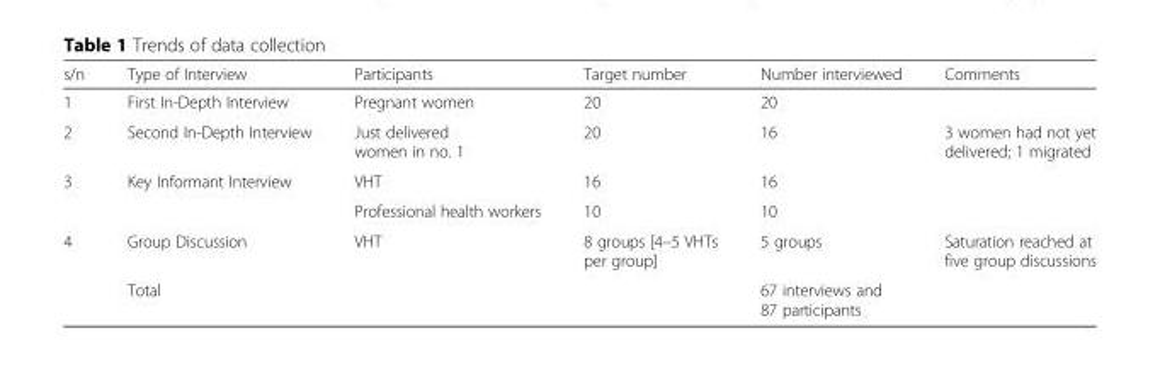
<table><thead><tr><td>s/n</td><td>Type of Interview</td><td>Participants</td><td>Target number</td><td>Number interviewed</td><td>Comments</td></tr></thead><tbody><tr><td>1</td><td>First In-Depth Interview</td><td>Pregnant women</td><td>20</td><td>20</td><td></td></tr><tr><td>2</td><td>Second In-Depth Interview</td><td>Just delivered women in no. 1</td><td>20</td><td>16</td><td>3 women had not yet delivered; 1 migrated</td></tr><tr><td rowspan="2">3</td><td>Key Informant Interview</td><td>VHT</td><td>16</td><td>16</td><td></td></tr><tr><td></td><td>Professional health workers</td><td>10</td><td>10</td><td></td></tr><tr><td rowspan="2">4</td><td>Group Discussion</td><td>VHT</td><td>8 groups [4–5 VHTs per group]</td><td>5 groups</td><td>Saturation reached at five group discussions</td></tr><tr><td>Total</td><td colspan="2"></td><td>67 interviews and 87 participants</td><td></td></tr></tbody></table>